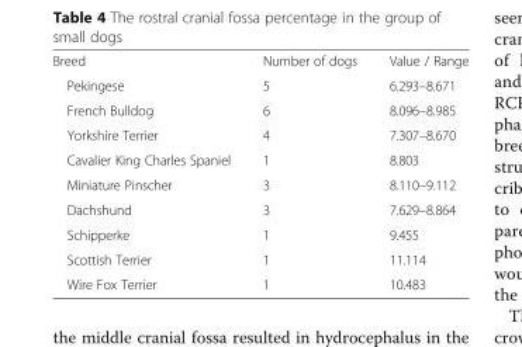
<table><tbody><tr><td>Breed</td><td>Number of dogs</td><td>Value / Range</td></tr><tr><td>Pekingese</td><td>5</td><td>6.293–8.671</td></tr><tr><td>French Bulldog</td><td>6</td><td>8.096–8.985</td></tr><tr><td>Yorkshire Terrier</td><td>4</td><td>7.307–8.670</td></tr><tr><td>Cavalier King Charles Spaniel</td><td>1</td><td>8.803</td></tr><tr><td>Miniature Pinscher</td><td>3</td><td>8.110–9.112</td></tr><tr><td>Dachshund</td><td>3</td><td>7.629–8.864</td></tr><tr><td>Schipperke</td><td>1</td><td>9.455</td></tr><tr><td>Scottish Terrier</td><td>1</td><td>11.114</td></tr><tr><td>Wire Fox Terrier</td><td>1</td><td>10.483</td></tr></tbody></table>